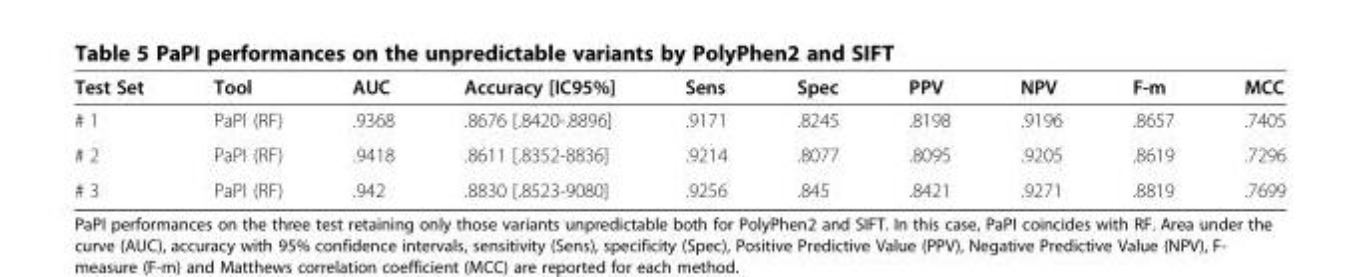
<table><thead><tr><td>Test Set</td><td>Tool</td><td>AUC</td><td>Accuracy [IC95%]</td><td>Sens</td><td>Spec</td><td>PPV</td><td>NPV</td><td>F-m</td><td>MCC</td></tr></thead><tbody><tr><td># 1</td><td>PaPI (RF)</td><td>.9368</td><td>.8676 [.8420-.8896]</td><td>.9171</td><td>.8245</td><td>.8198</td><td>.9196</td><td>.8657</td><td>.7405</td></tr><tr><td># 2</td><td>PaPI (RF)</td><td>.9418</td><td>.8611 [.8352-8836]</td><td>.9214</td><td>.8077</td><td>.8095</td><td>.9205</td><td>.8619</td><td>.7296</td></tr><tr><td># 3</td><td>PaPI (RF)</td><td>.942</td><td>.8830 [.8523-9080]</td><td>.9256</td><td>.845</td><td>.8421</td><td>.9271</td><td>.8819</td><td>.7699</td></tr></tbody></table>